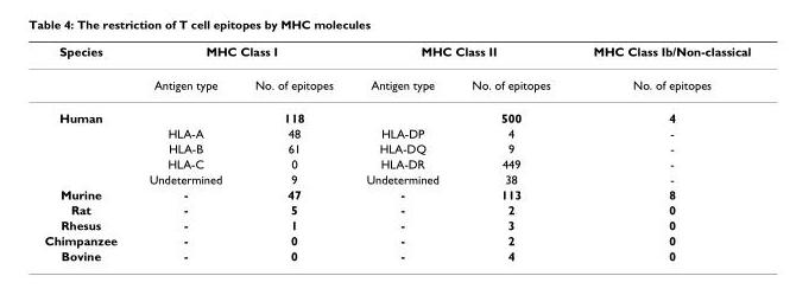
<table><thead><tr><td rowspan="2">Species</td><td colspan="2">MHC Class I</td><td colspan="2">MHC Class II</td><td rowspan="2">MHC Class Ib/Non-classical No. of epitopes</td></tr><tr><td>Antigen type</td><td>No. of epitopes</td><td>Antigen type</td><td>No. of epitopes</td></tr></thead><tbody><tr><td rowspan="5">Human</td><td></td><td>118</td><td></td><td>500</td><td>4</td></tr><tr><td>HLA-A</td><td>48</td><td>HLA-DP</td><td>4</td><td>-</td></tr><tr><td>HLA-B</td><td>61</td><td>HLA-DQ</td><td>9</td><td>-</td></tr><tr><td>HLA-C</td><td>0</td><td>HLA-DR</td><td>449</td><td>-</td></tr><tr><td>Undetermined</td><td>9</td><td>Undetermined</td><td>38</td><td>-</td></tr><tr><td>Murine</td><td>-</td><td>47</td><td>-</td><td>113</td><td>8</td></tr><tr><td>Rat</td><td>-</td><td>5</td><td>-</td><td>2</td><td>0</td></tr><tr><td>Rhesus</td><td>-</td><td>1</td><td>-</td><td>3</td><td>0</td></tr><tr><td>Chimpanzee</td><td>-</td><td>0</td><td>-</td><td>2</td><td>0</td></tr><tr><td>Bovine</td><td>-</td><td>0</td><td>-</td><td>4</td><td>0</td></tr></tbody></table>